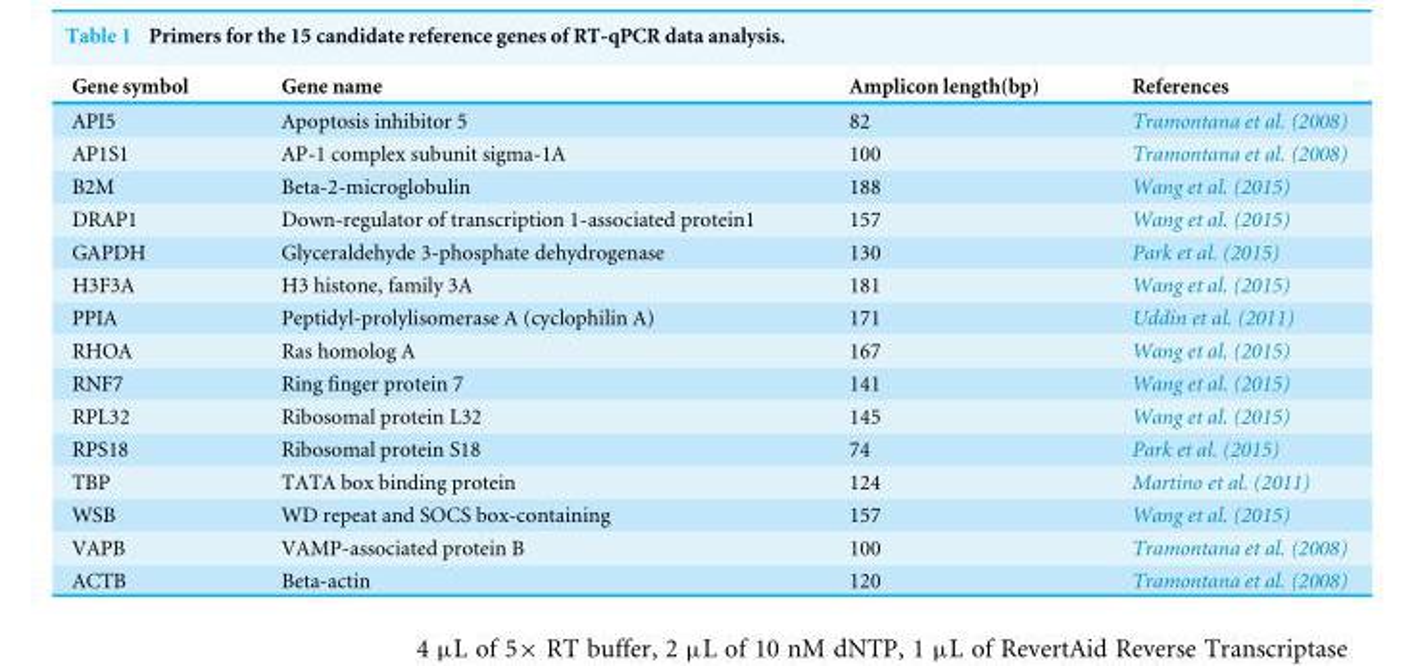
<table><thead><tr><td>Gene symbol</td><td>Gene name</td><td>Amplicon length(bp)</td><td>References</td></tr></thead><tbody><tr><td>API5</td><td>Apoptosis inhibitor 5</td><td>82</td><td>Tramontana et al. (2008)</td></tr><tr><td>AP1S1</td><td>AP-1 complex subunit sigma-1A</td><td>100</td><td>Tramontana et al. (2008)</td></tr><tr><td>B2M</td><td>Beta-2-microglobulin</td><td>188</td><td>Wang et al. (2015)</td></tr><tr><td>DRAP1</td><td>Down-regulator of transcription 1-associated protein1</td><td>157</td><td>Wang et al. (2015)</td></tr><tr><td>GAPDH</td><td>Glyceraldehyde 3-phosphate dehydrogenase</td><td>130</td><td>Park et al. (2015)</td></tr><tr><td>H3F3A</td><td>H3 histone, family 3A</td><td>181</td><td>Wang et al. (2015)</td></tr><tr><td>PPIA</td><td>Peptidyl-prolylisomerase A (cyclophilin A)</td><td>171</td><td>Uddin et al. (2011)</td></tr><tr><td>RHOA</td><td>Ras homolog A</td><td>167</td><td>Wang et al. (2015)</td></tr><tr><td>RNF7</td><td>Ring finger protein 7</td><td>141</td><td>Wang et al. (2015)</td></tr><tr><td>RPL32</td><td>Ribosomal protein L32</td><td>145</td><td>Wang et al. (2015)</td></tr><tr><td>RPS18</td><td>Ribosomal protein S18</td><td>74</td><td>Park et al. (2015)</td></tr><tr><td>TBP</td><td>TATA box binding protein</td><td>124</td><td>Martino et al. (2011)</td></tr><tr><td>WSB</td><td>WD repeat and SOCS box-containing</td><td>157</td><td>Wang et al. (2015)</td></tr><tr><td>VAPB</td><td>VAMP-associated protein B</td><td>100</td><td>Tramontana et al. (2008)</td></tr><tr><td>ACTB</td><td>Beta-actin</td><td>120</td><td>Tramontana et al. (2008)</td></tr></tbody></table>